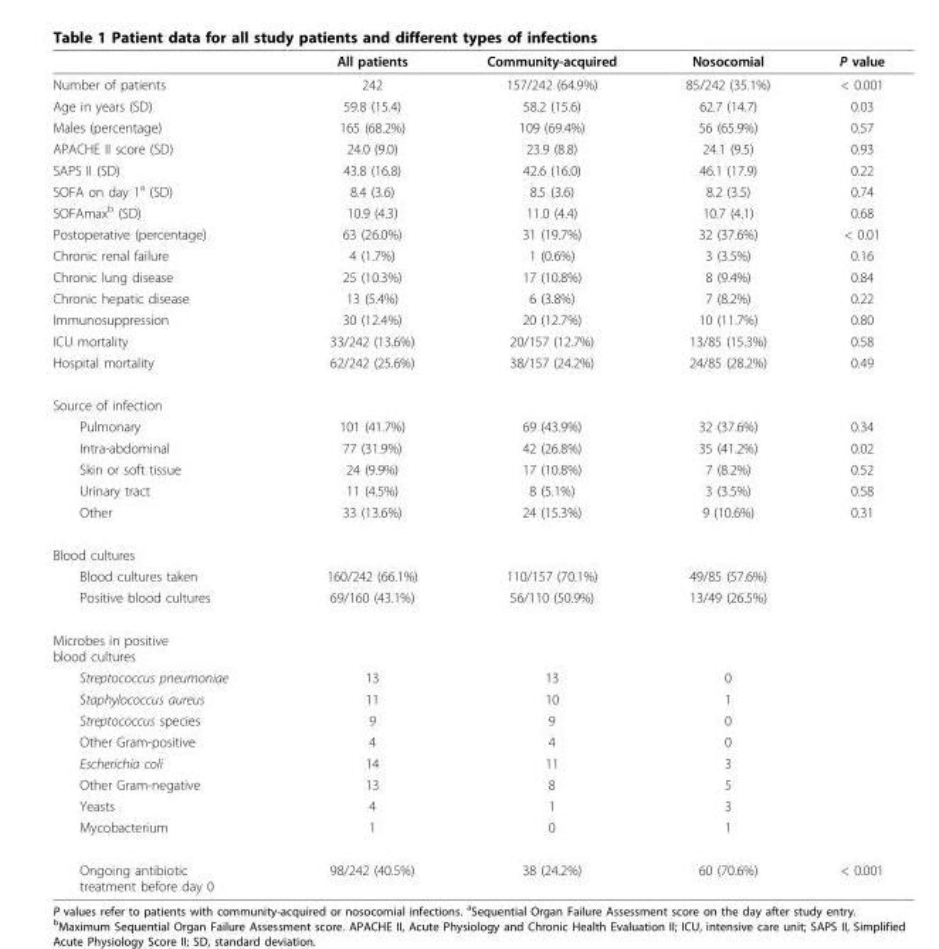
<table><thead><tr><td></td><td>All patients</td><td>Community-acquired</td><td>Nosocomial</td><td>P value</td></tr></thead><tbody><tr><td>Number of patients</td><td>242</td><td>157/242 (64.9%)</td><td>85/242 (35.1%)</td><td>&lt; 0.001</td></tr><tr><td>Age in years (SD)</td><td>59.8 (15.4)</td><td>58.2 (15.6)</td><td>62.7 (14.7)</td><td>0.03</td></tr><tr><td>Males (percentage)</td><td>165 (68.2%)</td><td>109 (69.4%)</td><td>56 (65.9%)</td><td>0.57</td></tr><tr><td>APACHE II score (SD)</td><td>24.0 (9.0)</td><td>23.9 (8.8)</td><td>24.1 (9.5)</td><td>0.93</td></tr><tr><td>SAPS II (SD)</td><td>43.8 (16.8)</td><td>42.6 (16.0)</td><td>46.1 (17.9)</td><td>0.22</td></tr><tr><td>SOFA on day 1<sup>a</sup> (SD)</td><td>8.4 (3.6)</td><td>8.5 (3.6)</td><td>8.2 (3.5)</td><td>0.74</td></tr><tr><td>SOFAmax<sup>b</sup> (SD)</td><td>10.9 (4.3)</td><td>11.0 (4.4)</td><td>10.7 (4.1)</td><td>0.68</td></tr><tr><td>Postoperative (percentage)</td><td>63 (26.0%)</td><td>31 (19.7%)</td><td>32 (37.6%)</td><td>&lt; 0.01</td></tr><tr><td>Chronic renal failure</td><td>4 (1.7%)</td><td>1 (0.6%)</td><td>3 (3.5%)</td><td>0.16</td></tr><tr><td>Chronic lung disease</td><td>25 (10.3%)</td><td>17 (10.8%)</td><td>8 (9.4%)</td><td>0.84</td></tr><tr><td>Chronic hepatic disease</td><td>13 (5.4%)</td><td>6 (3.8%)</td><td>7 (8.2%)</td><td>0.22</td></tr><tr><td>Immunosuppression</td><td>30 (12.4%)</td><td>20 (12.7%)</td><td>10 (11.7%)</td><td>0.80</td></tr><tr><td>ICU mortality</td><td>33/242 (13.6%)</td><td>20/157 (12.7%)</td><td>13/85 (15.3%)</td><td>0.58</td></tr><tr><td>Hospital mortality</td><td>62/242 (25.6%)</td><td>38/157 (24.2%)</td><td>24/85 (28.2%)</td><td>0.49</td></tr><tr><td colspan="5">Source of infection</td></tr><tr><td>Pulmonary</td><td>101 (41.7%)</td><td>69 (43.9%)</td><td>32 (37.6%)</td><td>0.34</td></tr><tr><td>Intra-abdominal</td><td>77 (31.9%)</td><td>42 (26.8%)</td><td>35 (41.2%)</td><td>0.02</td></tr><tr><td>Skin or soft tissue</td><td>24 (9.9%)</td><td>17 (10.8%)</td><td>7 (8.2%)</td><td>0.52</td></tr><tr><td>Urinary tract</td><td>11 (4.5%)</td><td>8 (5.1%)</td><td>3 (3.5%)</td><td>0.58</td></tr><tr><td>Other</td><td>33 (13.6%)</td><td>24 (15.3%)</td><td>9 (10.6%)</td><td>0.31</td></tr><tr><td colspan="5">Blood cultures</td></tr><tr><td>Blood cultures taken</td><td>160/242 (66.1%)</td><td>110/157 (70.1%)</td><td>49/85 (57.6%)</td><td></td></tr><tr><td>Positive blood cultures</td><td>69/160 (43.1%)</td><td>56/110 (50.9%)</td><td>13/49 (26.5%)</td><td></td></tr><tr><td colspan="5">Microbes in positive blood cultures</td></tr><tr><td>Streptococcus pneumoniae</td><td>13</td><td>13</td><td>0</td><td></td></tr><tr><td>Staphylococcus aureus</td><td>11</td><td>10</td><td>1</td><td></td></tr><tr><td>Streptococcus species</td><td>9</td><td>9</td><td>0</td><td></td></tr><tr><td>Other Gram-positive</td><td>4</td><td>4</td><td>0</td><td></td></tr><tr><td>Escherichia coli</td><td>14</td><td>11</td><td>3</td><td></td></tr><tr><td>Other Gram-negative</td><td>13</td><td>8</td><td>5</td><td></td></tr><tr><td>Yeasts</td><td>4</td><td>1</td><td>3</td><td></td></tr><tr><td>Mycobacterium</td><td>1</td><td>0</td><td>1</td><td></td></tr><tr><td>Ongoing antibiotic treatment before day 0</td><td>98/242 (40.5%)</td><td>38 (24.2%)</td><td>60 (70.6%)</td><td>&lt; 0.001</td></tr></tbody></table>